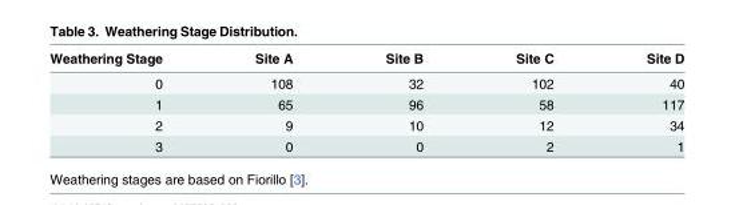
<table><thead><tr><td>Weathering Stage</td><td>Site A</td><td>Site B</td><td>Site C</td><td>Site D</td></tr></thead><tbody><tr><td>0</td><td>108</td><td>32</td><td>102</td><td>40</td></tr><tr><td>1</td><td>65</td><td>96</td><td>58</td><td>117</td></tr><tr><td>2</td><td>9</td><td>10</td><td>12</td><td>34</td></tr><tr><td>3</td><td>0</td><td>0</td><td>2</td><td>1</td></tr></tbody></table>